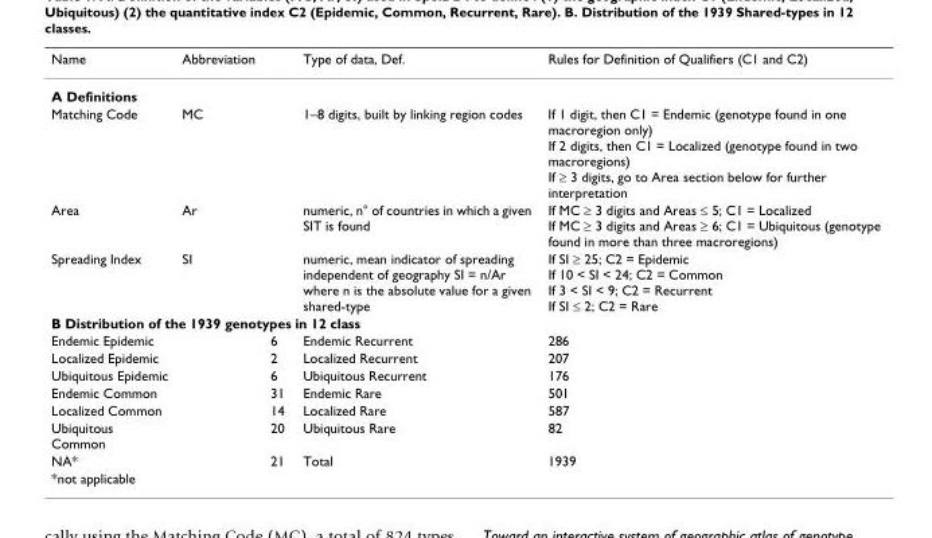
<table><thead><tr><td>Name</td><td>Abbreviation</td><td></td><td>Type of data, Def.</td><td>Rules for Definition of Qualifiers (C1 and C2)</td></tr></thead><tbody><tr><td colspan="5">A Definitions</td></tr><tr><td>Matching Code</td><td>MC</td><td></td><td>1–8 digits, built by linking region codes</td><td>If 1 digit, then C1 = Endemic (genotype found in one macroregion only) If 2 digits, then C1 = Localized (genotype found in two macroregions) If ≥ 3 digits, go to Area section below for further interpretation</td></tr><tr><td>Area</td><td>Ar</td><td></td><td>numeric, n° of countries in which a given SIT is found</td><td>If MC ≥ 3 digits and Areas ≤ 5; C1 = Localized If MC ≥ 3 digits and Areas ≥ 6; C1 = Ubiquitous (genotype found in more than three macroregions)</td></tr><tr><td>Spreading Index</td><td>SI</td><td></td><td>numeric, mean indicator of spreading independent of geography SI = n/Ar where n is the absolute value for a given shared-type</td><td>If SI ≥ 25; C2 = Epidemic If 10 &lt; SI &lt; 24; C2 = Common If 3 &lt; SI &lt; 9; C2 = Recurrent If SI ≤ 2; C2 = Rare</td></tr><tr><td colspan="5">B Distribution of the 1939 genotypes in 12 class</td></tr><tr><td>Endemic Epidemic</td><td></td><td>6</td><td>Endemic Recurrent</td><td>286</td></tr><tr><td>Localized Epidemic</td><td></td><td>2</td><td>Localized Recurrent</td><td>207</td></tr><tr><td>Ubiquitous Epidemic</td><td></td><td>6</td><td>Ubiquitous Recurrent</td><td>176</td></tr><tr><td>Endemic Common</td><td></td><td>31</td><td>Endemic Rare</td><td>501</td></tr><tr><td>Localized Common</td><td></td><td>14</td><td>Localized Rare</td><td>587</td></tr><tr><td>Ubiquitous Common</td><td></td><td>20</td><td>Ubiquitous Rare</td><td>82</td></tr><tr><td>NA*</td><td></td><td>21</td><td>Total</td><td>1939</td></tr><tr><td>*not applicable</td><td></td><td></td><td></td><td></td></tr></tbody></table>